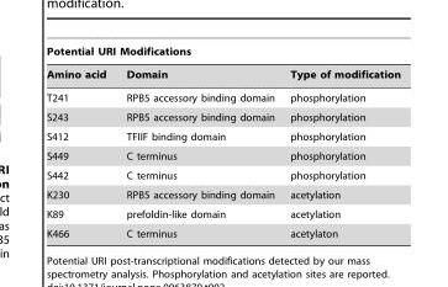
<table><thead><tr><td colspan="3">Potential URI Modifications</td></tr><tr><td>Amino acid</td><td>Domain</td><td>Type of modification</td></tr></thead><tbody><tr><td>T241</td><td>RPB5 accessory binding domain</td><td>phosphorylation</td></tr><tr><td>S243</td><td>RPB5 accessory binding domain</td><td>phosphorylation</td></tr><tr><td>S412</td><td>TFIIF binding domain</td><td>phosphorylation</td></tr><tr><td>S449</td><td>C terminus</td><td>phosphorylation</td></tr><tr><td>S442</td><td>C terminus</td><td>phosphorylation</td></tr><tr><td>K230</td><td>RPB5 accessory binding domain</td><td>acetylation</td></tr><tr><td>K89</td><td>prefoldin-like domain</td><td>acetylation</td></tr><tr><td>K466</td><td>C terminus</td><td>acetylaton</td></tr></tbody></table>